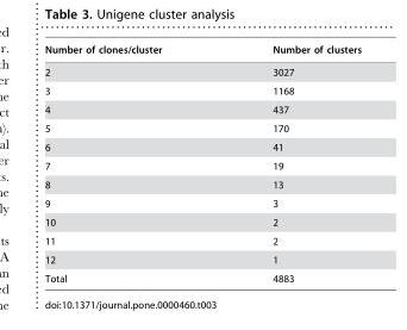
<table><thead><tr><td>Number of clones/cluster</td><td>Number of clusters</td></tr></thead><tbody><tr><td>2</td><td>3027</td></tr><tr><td>3</td><td>1168</td></tr><tr><td>4</td><td>437</td></tr><tr><td>5</td><td>170</td></tr><tr><td>6</td><td>41</td></tr><tr><td>7</td><td>19</td></tr><tr><td>8</td><td>13</td></tr><tr><td>9</td><td>3</td></tr><tr><td>10</td><td>2</td></tr><tr><td>11</td><td>2</td></tr><tr><td>12</td><td>1</td></tr><tr><td>Total</td><td>4883</td></tr></tbody></table>